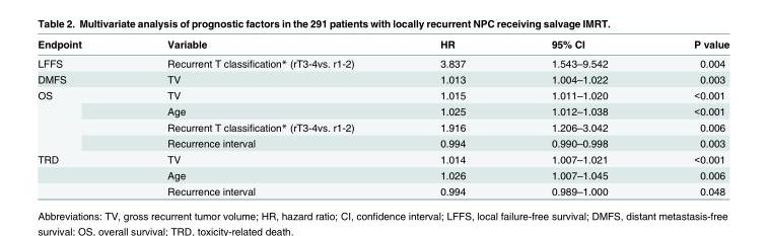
<table><thead><tr><td>Endpoint</td><td>Variable</td><td>HR</td><td>95% CI</td><td>P value</td></tr></thead><tbody><tr><td>LFFS</td><td>Recurrent T classification* (rT3-4vs. r1-2)</td><td>3.837</td><td>1.543–9.542</td><td>0.004</td></tr><tr><td>DMFS</td><td>TV</td><td>1.013</td><td>1.004–1.022</td><td>0.003</td></tr><tr><td rowspan="4">OS</td><td>TV</td><td>1.015</td><td>1.011–1.020</td><td>&lt;0.001</td></tr><tr><td>Age</td><td>1.025</td><td>1.012–1.038</td><td>&lt;0.001</td></tr><tr><td>Recurrent T classification* (rT3-4vs. r1-2)</td><td>1.916</td><td>1.206–3.042</td><td>0.006</td></tr><tr><td>Recurrence interval</td><td>0.994</td><td>0.990–0.998</td><td>0.003</td></tr><tr><td rowspan="3">TRD</td><td>TV</td><td>1.014</td><td>1.007–1.021</td><td>&lt;0.001</td></tr><tr><td>Age</td><td>1.026</td><td>1.007–1.045</td><td>0.006</td></tr><tr><td>Recurrence interval</td><td>0.994</td><td>0.989–1.000</td><td>0.048</td></tr></tbody></table>